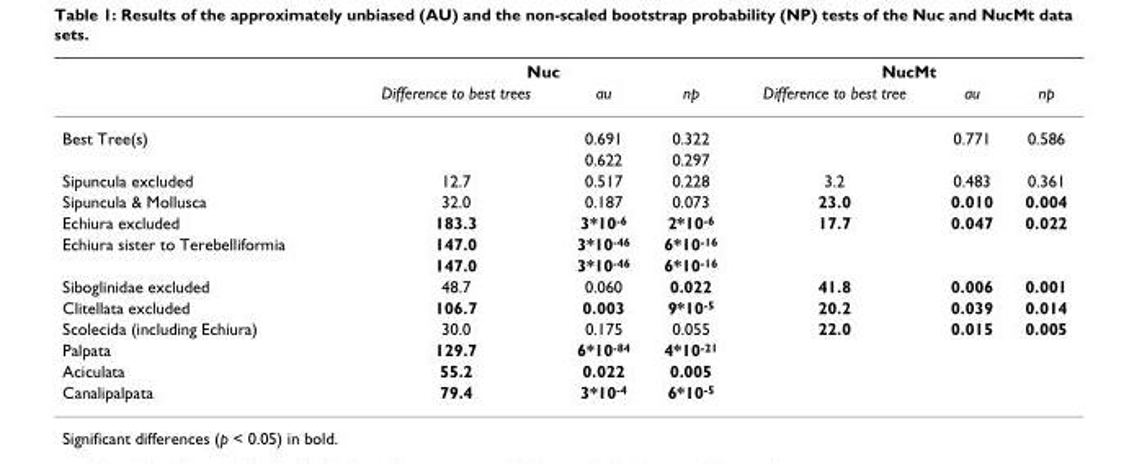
<table><thead><tr><td rowspan="2"></td><td colspan="3">Nuc</td><td colspan="3">NucMt</td></tr><tr><td>Difference to best trees</td><td>au</td><td>np</td><td>Difference to best tree</td><td>au</td><td>np</td></tr></thead><tbody><tr><td rowspan="2">Best Tree(s)</td><td></td><td>0.691</td><td>0.322</td><td></td><td>0.771</td><td>0.586</td></tr><tr><td></td><td>0.622</td><td>0.297</td><td></td><td></td><td></td></tr><tr><td>Sipuncula excluded</td><td>12.7</td><td>0.517</td><td>0.228</td><td>3.2</td><td>0.483</td><td>0.361</td></tr><tr><td>Sipuncula &amp; Mollusca</td><td>32.0</td><td>0.187</td><td>0.073</td><td>23.0</td><td>0.010</td><td>0.004</td></tr><tr><td>Echiura excluded</td><td>183.3</td><td>3*10<sup>-6</sup></td><td>2*10<sup>-6</sup></td><td>17.7</td><td>0.047</td><td>0.022</td></tr><tr><td rowspan="2">Echiura sister to Terebelliformia</td><td>147.0</td><td>3*10<sup>-46</sup></td><td>6*10<sup>-16</sup></td><td></td><td></td><td></td></tr><tr><td>147.0</td><td>3*10<sup>-46</sup></td><td>6*10<sup>-16</sup></td><td></td><td></td><td></td></tr><tr><td>Siboglinidae excluded</td><td>48.7</td><td>0.060</td><td>0.022</td><td>41.8</td><td>0.006</td><td>0.001</td></tr><tr><td>Clitellata excluded</td><td>106.7</td><td>0.003</td><td>9*10<sup>-5</sup></td><td>20.2</td><td>0.039</td><td>0.014</td></tr><tr><td>Scolecida (including Echiura)</td><td>30.0</td><td>0.175</td><td>0.055</td><td>22.0</td><td>0.015</td><td>0.005</td></tr><tr><td>Palpata</td><td>129.7</td><td>6*10<sup>-84</sup></td><td>4*10<sup>-21</sup></td><td></td><td></td><td></td></tr><tr><td>Aciculata</td><td>55.2</td><td>0.022</td><td>0.005</td><td></td><td></td><td></td></tr><tr><td>Canalipalpata</td><td>79.4</td><td>3*10<sup>-4</sup></td><td>6*10<sup>-5</sup></td><td></td><td></td><td></td></tr></tbody></table>